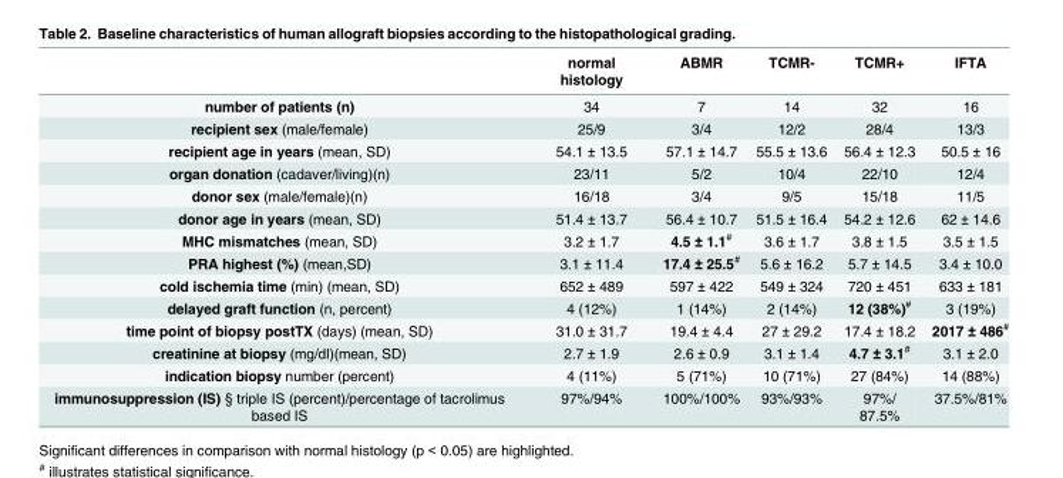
<table><thead><tr><td></td><td>normal histology</td><td>ABMR</td><td>TCMR-</td><td>TCMR+</td><td>IFTA</td></tr></thead><tbody><tr><td>number of patients (n)</td><td>34</td><td>7</td><td>14</td><td>32</td><td>16</td></tr><tr><td>recipient sex (male/female)</td><td>25/9</td><td>3/4</td><td>12/2</td><td>28/4</td><td>13/3</td></tr><tr><td>recipient age in years (mean, SD)</td><td>54.1 ± 13.5</td><td>57.1 ± 14.7</td><td>55.5 ± 13.6</td><td>56.4 ± 12.3</td><td>50.5 ± 16</td></tr><tr><td>organ donation (cadaver/living)(n)</td><td>23/11</td><td>5/2</td><td>10/4</td><td>22/10</td><td>12/4</td></tr><tr><td>donor sex (male/female)(n)</td><td>16/18</td><td>3/4</td><td>9/5</td><td>15/18</td><td>11/5</td></tr><tr><td>donor age in years (mean, SD)</td><td>51.4 ± 13.7</td><td>56.4 ± 10.7</td><td>51.5 ± 16.4</td><td>54.2 ± 12.6</td><td>62 ± 14.6</td></tr><tr><td>MHC mismatches (mean, SD)</td><td>3.2 ± 1.7</td><td>4.5 ± 1.1<sup>#</sup></td><td>3.6 ± 1.7</td><td>3.8 ± 1.5</td><td>3.5 ± 1.5</td></tr><tr><td>PRA highest (%) (mean,SD)</td><td>3.1 ± 11.4</td><td>17.4 ± 25.5<sup>#</sup></td><td>5.6 ± 16.2</td><td>5.7 ± 14.5</td><td>3.4 ± 10.0</td></tr><tr><td>cold ischemia time (min) (mean, SD)</td><td>652 ± 489</td><td>597 ± 422</td><td>549 ± 324</td><td>720 ± 451</td><td>633 ± 181</td></tr><tr><td>delayed graft function (n, percent)</td><td>4 (12%)</td><td>1 (14%)</td><td>2 (14%)</td><td>12 (38%)<sup>#</sup></td><td>3 (19%)</td></tr><tr><td>time point of biopsy postTX (days) (mean, SD)</td><td>31.0 ± 31.7</td><td>19.4 ± 4.4</td><td>27 ± 29.2</td><td>17.4 ± 18.2</td><td>2017 ± 486<sup>#</sup></td></tr><tr><td>creatinine at biopsy (mg/dl)(mean, SD)</td><td>2.7 ± 1.9</td><td>2.6 ± 0.9</td><td>3.1 ± 1.4</td><td>4.7 ± 3.1<sup>#</sup></td><td>3.1 ± 2.0</td></tr><tr><td>indication biopsy number (percent)</td><td>4 (11%)</td><td>5 (71%)</td><td>10 (71%)</td><td>27 (84%)</td><td>14 (88%)</td></tr><tr><td>immunosuppression (IS) § triple IS (percent)/percentage of tacrolimus based IS</td><td>97%/94%</td><td>100%/100%</td><td>93%/93%</td><td>97%/ 87.5%</td><td>37.5%/81%</td></tr></tbody></table>